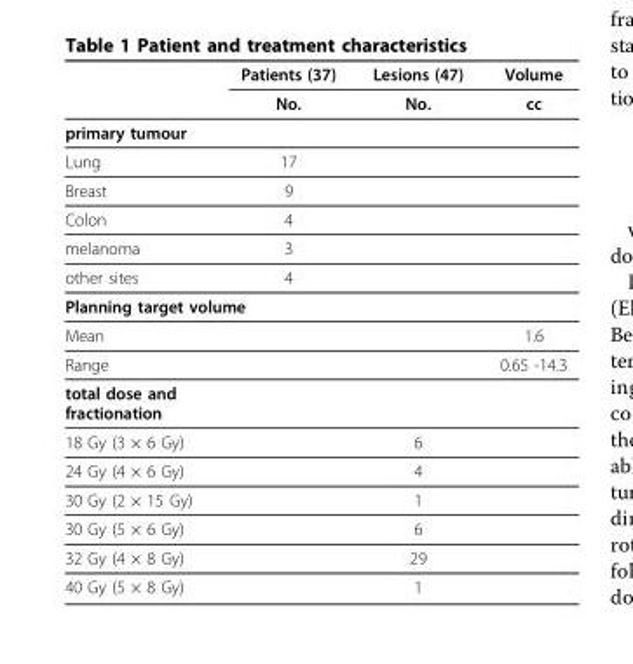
<table><thead><tr><td rowspan="2"></td><td rowspan="2">Patients (37) No.</td><td rowspan="2">Lesions (47) No.</td><td rowspan="2">Volume cc</td></tr><tr></tr></thead><tbody><tr><td colspan="4">primary tumour</td></tr><tr><td>Lung</td><td>17</td><td></td><td></td></tr><tr><td>Breast</td><td>9</td><td></td><td></td></tr><tr><td>Colon</td><td>4</td><td></td><td></td></tr><tr><td>melanoma</td><td>3</td><td></td><td></td></tr><tr><td>other sites</td><td>4</td><td></td><td></td></tr><tr><td colspan="4">Planning target volume</td></tr><tr><td>Mean</td><td></td><td></td><td>1.6</td></tr><tr><td>Range</td><td></td><td></td><td>0.65 -14.3</td></tr><tr><td colspan="4">total dose and fractionation</td></tr><tr><td>18 Gy (3 × 6 Gy)</td><td></td><td>6</td><td></td></tr><tr><td>24 Gy (4 × 6 Gy)</td><td></td><td>4</td><td></td></tr><tr><td>30 Gy (2 × 15 Gy)</td><td></td><td>1</td><td></td></tr><tr><td>30 Gy (5 × 6 Gy)</td><td></td><td>6</td><td></td></tr><tr><td>32 Gy (4 × 8 Gy)</td><td></td><td>29</td><td></td></tr><tr><td>40 Gy (5 × 8 Gy)</td><td></td><td>1</td><td></td></tr></tbody></table>